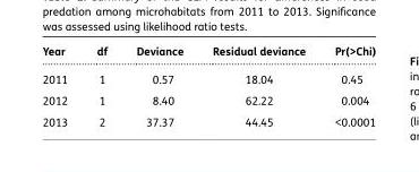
<table><thead><tr><td>Year</td><td>df</td><td>Deviance</td><td>Residual deviance</td><td>Pr(&gt;Chi)</td></tr></thead><tbody><tr><td>2011</td><td>1</td><td>0.57</td><td>18.04</td><td>0.45</td></tr><tr><td>2012</td><td>1</td><td>8.40</td><td>62.22</td><td>0.004</td></tr><tr><td>2013</td><td>2</td><td>37.37</td><td>44.45</td><td>&lt;0.0001</td></tr></tbody></table>